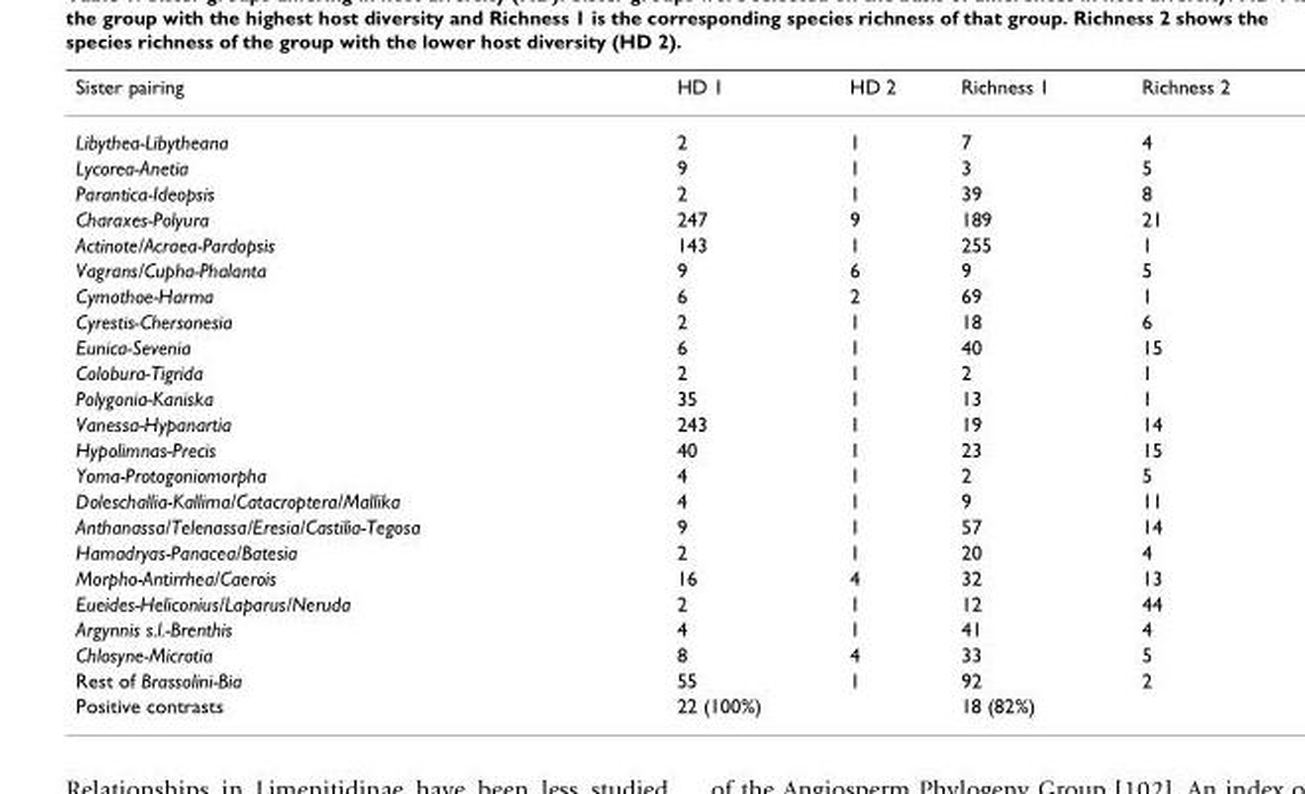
<table><thead><tr><td>Sister pairing</td><td>HD 1</td><td>HD 2</td><td>Richness 1</td><td>Richness 2</td></tr></thead><tbody><tr><td>Libythea-Libytheana</td><td>2</td><td>1</td><td>7</td><td>4</td></tr><tr><td>Lycorea-Anetia</td><td>9</td><td>1</td><td>3</td><td>5</td></tr><tr><td>Parantica-Ideopsis</td><td>2</td><td>1</td><td>39</td><td>8</td></tr><tr><td>Charaxes-Polyura</td><td>247</td><td>9</td><td>189</td><td>21</td></tr><tr><td>Actinote/Acraea-Pardopsis</td><td>143</td><td>1</td><td>255</td><td>1</td></tr><tr><td>Vagrans/Cupha-Phalanta</td><td>9</td><td>6</td><td>9</td><td>5</td></tr><tr><td>Cymothoe-Harma</td><td>6</td><td>2</td><td>69</td><td>1</td></tr><tr><td>Cyrestis-Chersonesia</td><td>2</td><td>1</td><td>18</td><td>6</td></tr><tr><td>Eunica-Sevenia</td><td>6</td><td>1</td><td>40</td><td>15</td></tr><tr><td>Colobura-Tigrida</td><td>2</td><td>1</td><td>2</td><td>1</td></tr><tr><td>Polygonia-Kaniska</td><td>35</td><td>1</td><td>13</td><td>1</td></tr><tr><td>Vanessa-Hypanartia</td><td>243</td><td>1</td><td>19</td><td>14</td></tr><tr><td>Hypolimnas-Precis</td><td>40</td><td>1</td><td>23</td><td>15</td></tr><tr><td>Yoma-Protogoniomorpha</td><td>4</td><td>1</td><td>2</td><td>5</td></tr><tr><td>Doleschallia-Kallima/Catacroptera/Mallika</td><td>4</td><td>1</td><td>9</td><td>11</td></tr><tr><td>Anthanassa/Telenassa/Eresia/Castilia-Tegosa</td><td>9</td><td>1</td><td>57</td><td>14</td></tr><tr><td>Hamadryas-Panacea/Batesia</td><td>2</td><td>1</td><td>20</td><td>4</td></tr><tr><td>Morpho-Antirrhea/Caerois</td><td>16</td><td>4</td><td>32</td><td>13</td></tr><tr><td>Eueides-Heliconius/Laparus/Neruda</td><td>2</td><td>1</td><td>12</td><td>44</td></tr><tr><td>Argynnis s.l.-Brenthis</td><td>4</td><td>1</td><td>41</td><td>4</td></tr><tr><td>Chlosyne-Microtia</td><td>8</td><td>4</td><td>33</td><td>5</td></tr><tr><td>Rest of Brassolini-Bia</td><td>55</td><td>1</td><td>92</td><td>2</td></tr><tr><td>Positive contrasts</td><td>22 (100%)</td><td></td><td>18 (82%)</td><td></td></tr></tbody></table>